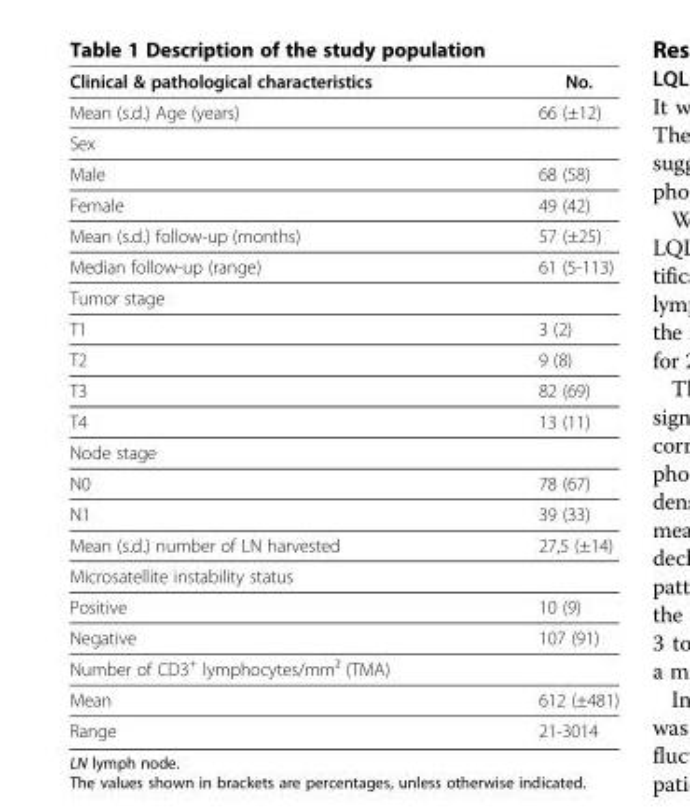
<table><thead><tr><td>Clinical &amp; pathological characteristics</td><td>No.</td></tr></thead><tbody><tr><td>Mean (s.d.) Age (years)</td><td>66 (±12)</td></tr><tr><td colspan="2">Sex</td></tr><tr><td>Male</td><td>68 (58)</td></tr><tr><td>Female</td><td>49 (42)</td></tr><tr><td>Mean (s.d.) follow-up (months)</td><td>57 (±25)</td></tr><tr><td>Median follow-up (range)</td><td>61 (5-113)</td></tr><tr><td colspan="2">Tumor stage</td></tr><tr><td>T1</td><td>3 (2)</td></tr><tr><td>T2</td><td>9 (8)</td></tr><tr><td>T3</td><td>82 (69)</td></tr><tr><td>T4</td><td>13 (11)</td></tr><tr><td colspan="2">Node stage</td></tr><tr><td>N0</td><td>78 (67)</td></tr><tr><td>N1</td><td>39 (33)</td></tr><tr><td>Mean (s.d.) number of LN harvested</td><td>27,5 (±14)</td></tr><tr><td colspan="2">Microsatellite instability status</td></tr><tr><td>Positive</td><td>10 (9)</td></tr><tr><td>Negative</td><td>107 (91)</td></tr><tr><td colspan="2">Number of CD3<sup>+</sup> lymphocytes/mm² (TMA)</td></tr><tr><td>Mean</td><td>612 (±481)</td></tr><tr><td>Range</td><td>21-3014</td></tr></tbody></table>